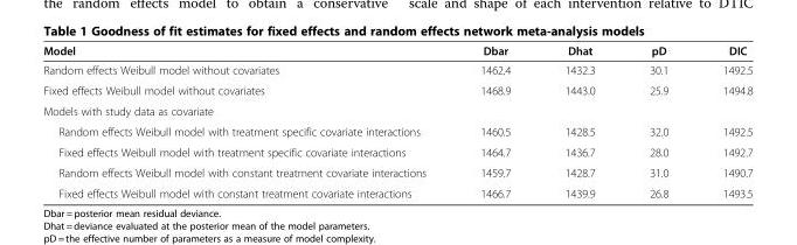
<table><thead><tr><td>Model</td><td>Dbar</td><td>Dhat</td><td>pD</td><td>DIC</td></tr></thead><tbody><tr><td>Random effects Weibull model without covariates</td><td>1462.4</td><td>1432.3</td><td>30.1</td><td>1492.5</td></tr><tr><td>Fixed effects Weibull model without covariates</td><td>1468.9</td><td>1443.0</td><td>25.9</td><td>1494.8</td></tr><tr><td colspan="5">Models with study data as covariate</td></tr><tr><td>Random effects Weibull model with treatment specific covariate interactions</td><td>1460.5</td><td>1428.5</td><td>32.0</td><td>1492.5</td></tr><tr><td>Fixed effects Weibull model with treatment specific covariate interactions</td><td>1464.7</td><td>1436.7</td><td>28.0</td><td>1492.7</td></tr><tr><td>Random effects Weibull model with constant treatment covariate interactions</td><td>1459.7</td><td>1428.7</td><td>31.0</td><td>1490.7</td></tr><tr><td>Fixed effects Weibull model with constant treatment covariate interactions</td><td>1466.7</td><td>1439.9</td><td>26.8</td><td>1493.5</td></tr></tbody></table>